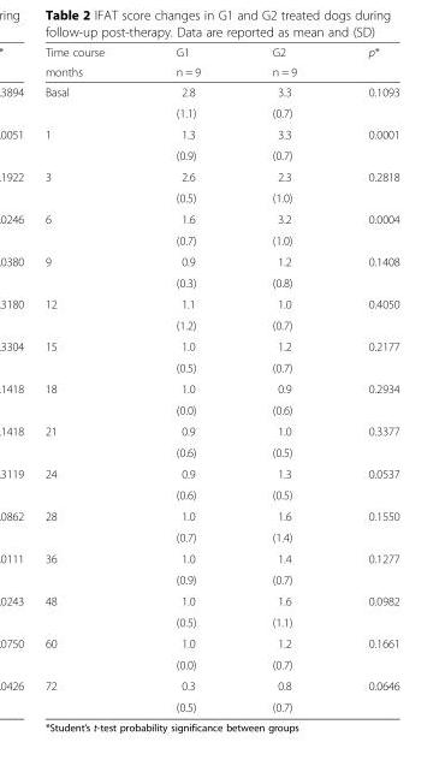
<table><thead><tr><td rowspan="2">Time course months</td><td rowspan="2">G1 n = 9</td><td rowspan="2">G2 n = 9</td><td rowspan="2">p*</td></tr><tr></tr></thead><tbody><tr><td rowspan="2">Basal</td><td>2.8</td><td>3.3</td><td rowspan="2">0.1093</td></tr><tr><td>(1.1)</td><td>(0.7)</td></tr><tr><td rowspan="2">1</td><td>1.3</td><td>3.3</td><td rowspan="2">0.0001</td></tr><tr><td>(0.9)</td><td>(0.7)</td></tr><tr><td rowspan="2">3</td><td>2.6</td><td>2.3</td><td rowspan="2">0.2818</td></tr><tr><td>(0.5)</td><td>(1.0)</td></tr><tr><td rowspan="2">6</td><td>1.6</td><td>3.2</td><td rowspan="2">0.0004</td></tr><tr><td>(0.7)</td><td>(1.0)</td></tr><tr><td rowspan="2">9</td><td>0.9</td><td>1.2</td><td rowspan="2">0.1408</td></tr><tr><td>(0.3)</td><td>(0.8)</td></tr><tr><td rowspan="2">12</td><td>1.1</td><td>1.0</td><td rowspan="2">0.4050</td></tr><tr><td>(1.2)</td><td>(0.7)</td></tr><tr><td rowspan="2">15</td><td>1.0</td><td>1.2</td><td rowspan="2">0.2177</td></tr><tr><td>(0.5)</td><td>(0.7)</td></tr><tr><td rowspan="2">18</td><td>1.0</td><td>0.9</td><td rowspan="2">0.2934</td></tr><tr><td>(0.0)</td><td>(0.6)</td></tr><tr><td rowspan="2">21</td><td>0.9</td><td>1.0</td><td rowspan="2">0.3377</td></tr><tr><td>(0.6)</td><td>(0.5)</td></tr><tr><td rowspan="2">24</td><td>0.9</td><td>1.3</td><td rowspan="2">0.0537</td></tr><tr><td>(0.6)</td><td>(0.5)</td></tr><tr><td rowspan="2">28</td><td>1.0</td><td>1.6</td><td rowspan="2">0.1550</td></tr><tr><td>(0.7)</td><td>(1.4)</td></tr><tr><td rowspan="2">36</td><td>1.0</td><td>1.4</td><td rowspan="2">0.1277</td></tr><tr><td>(0.9)</td><td>(0.7)</td></tr><tr><td rowspan="2">48</td><td>1.0</td><td>1.6</td><td rowspan="2">0.0982</td></tr><tr><td>(0.5)</td><td>(1.1)</td></tr><tr><td rowspan="2">60</td><td>1.0</td><td>1.2</td><td rowspan="2">0.1661</td></tr><tr><td>(0.0)</td><td>(0.7)</td></tr><tr><td rowspan="2">72</td><td>0.3</td><td>0.8</td><td rowspan="2">0.0646</td></tr><tr><td>(0.5)</td><td>(0.7)</td></tr></tbody></table>